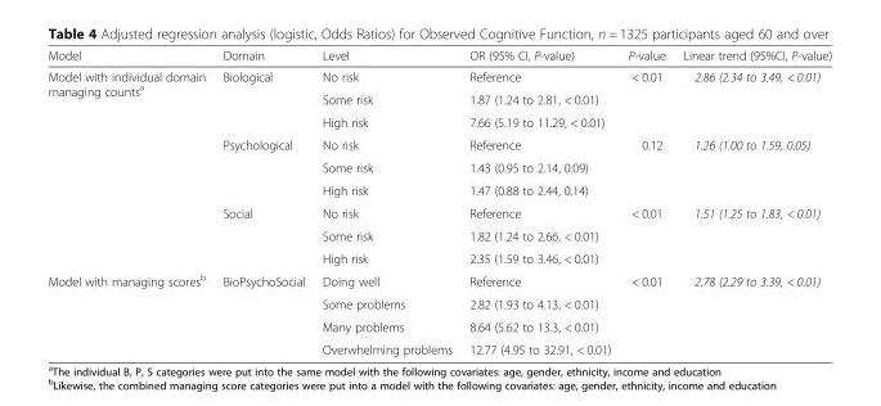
<table><thead><tr><td>Model</td><td>Domain</td><td>Level</td><td>OR (95% CI, P-value)</td><td>P-value</td><td>Linear trend (95%CI, P-value)</td></tr></thead><tbody><tr><td rowspan="9">Model with individual domain managing counts<sup>a</sup></td><td rowspan="3">Biological</td><td>No risk</td><td>Reference</td><td rowspan="3">&lt; 0.01</td><td rowspan="3">2.86 (2.34 to 3.49, &lt; 0.01)</td></tr><tr><td>Some risk</td><td>1.87 (1.24 to 2.81, &lt; 0.01)</td></tr><tr><td>High risk</td><td>7.66 (5.19 to 11.29, &lt; 0.01)</td></tr><tr><td rowspan="3">Psychological</td><td>No risk</td><td>Reference</td><td rowspan="3">0.12</td><td rowspan="3">1.26 (1.00 to 1.59, 0.05)</td></tr><tr><td>Some risk</td><td>1.43 (0.95 to 2.14, 0.09)</td></tr><tr><td>High risk</td><td>1.47 (0.88 to 2.44, 0.14)</td></tr><tr><td rowspan="3">Social</td><td>No risk</td><td>Reference</td><td rowspan="3">&lt; 0.01</td><td rowspan="3">1.51 (1.25 to 1.83, &lt; 0.01)</td></tr><tr><td>Some risk</td><td>1.82 (1.24 to 2.66, &lt; 0.01)</td></tr><tr><td>High risk</td><td>2.35 (1.59 to 3.46, &lt; 0.01)</td></tr><tr><td rowspan="4">Model with managing scores<sup>b</sup></td><td rowspan="4">BioPsychoSocial</td><td>Doing well</td><td>Reference</td><td rowspan="4">&lt; 0.01</td><td rowspan="4">2.78 (2.29 to 3.39, &lt; 0.01)</td></tr><tr><td>Some problems</td><td>2.82 (1.93 to 4.13, &lt; 0.01)</td></tr><tr><td>Many problems</td><td>8.64 (5.62 to 13.3, &lt; 0.01)</td></tr><tr><td>Overwhelming problems</td><td>12.77 (4.95 to 32.91, &lt; 0.01)</td></tr></tbody></table>